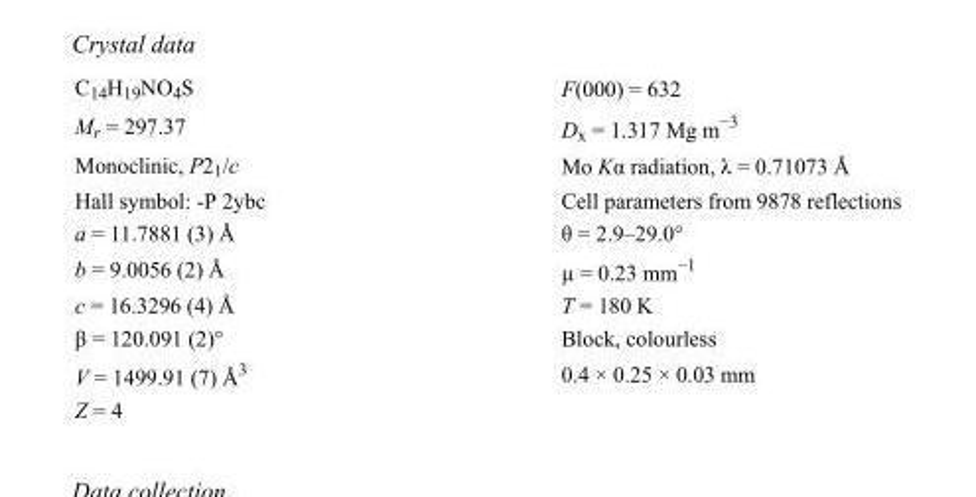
<table><tbody><tr><td>C<sub>14</sub>H<sub>19</sub>NO<sub>4</sub>S</td><td>F(000) = 632</td></tr><tr><td>M<sub>r</sub> = 297.37</td><td>D<sub>x</sub> = 1.317 Mg m<sup>−3</sup></td></tr><tr><td>Monoclinic, P2<sub>1</sub>/c</td><td>Mo Kα radiation, λ = 0.71073 Å</td></tr><tr><td>Hall symbol: -P 2ybc</td><td>Cell parameters from 9878 reflections</td></tr><tr><td>a = 11.7881 (3) Å</td><td>θ = 2.9–29.0°</td></tr><tr><td>b = 9.0056 (2) Å</td><td>µ = 0.23 mm<sup>−1</sup></td></tr><tr><td>c = 16.3296 (4) Å</td><td>T = 180 K</td></tr><tr><td>β = 120.091 (2)°</td><td>Block, colourless</td></tr><tr><td>V = 1499.91 (7) Å<sup>3</sup></td><td>0.4 × 0.25 × 0.03 mm</td></tr><tr><td>Z = 4</td><td></td></tr></tbody></table>